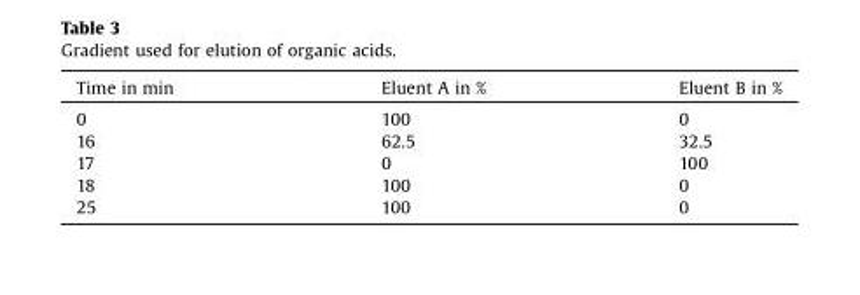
<table><thead><tr><td>Time in min</td><td>Eluent A in %</td><td>Eluent B in %</td></tr></thead><tbody><tr><td>0</td><td>100</td><td>0</td></tr><tr><td>16</td><td>62.5</td><td>32.5</td></tr><tr><td>17</td><td>0</td><td>100</td></tr><tr><td>18</td><td>100</td><td>0</td></tr><tr><td>25</td><td>100</td><td>0</td></tr></tbody></table>